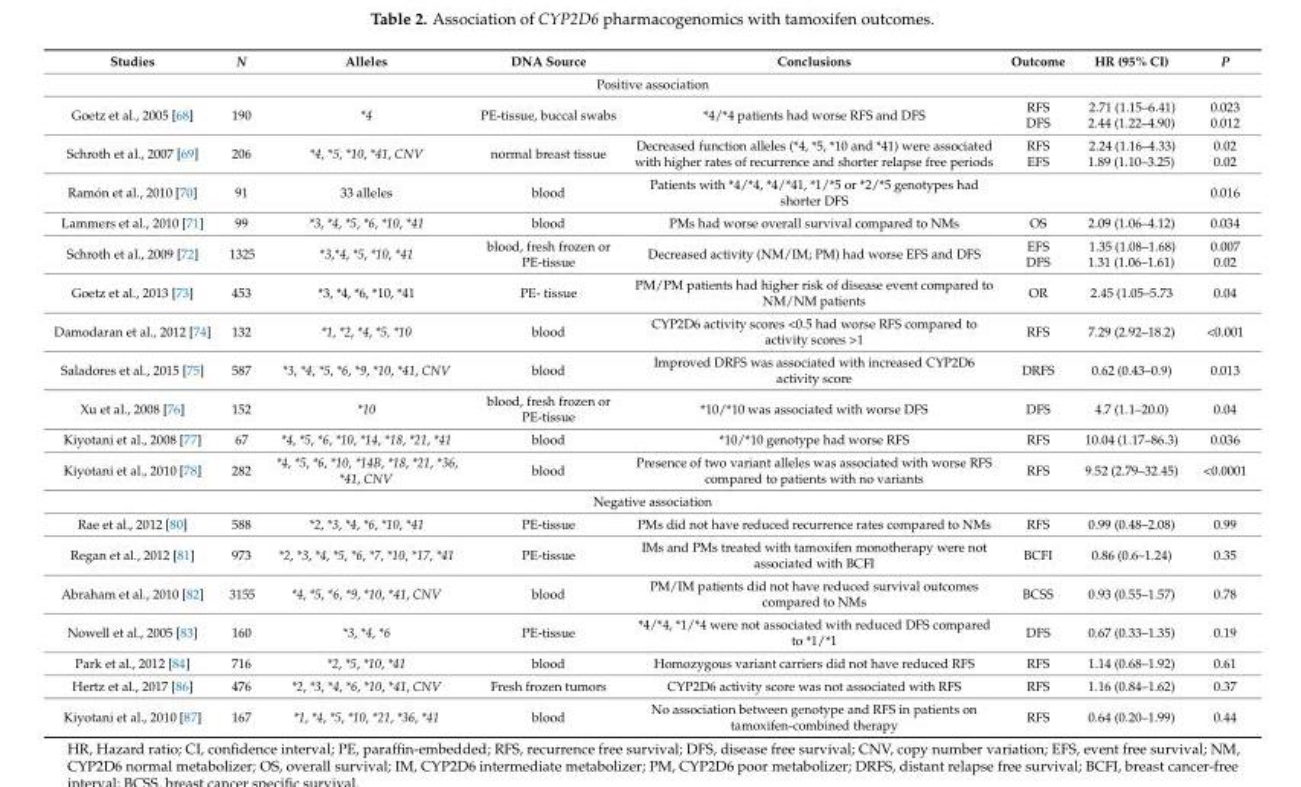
<table><thead><tr><td>Studies</td><td>N</td><td>Alleles</td><td>DNA Source</td><td>Conclusions</td><td>Outcome</td><td>HR (95% CI)</td><td>P</td></tr></thead><tbody><tr><td colspan="8">Positive association</td></tr><tr><td>Goetz et al., 2005 [68]</td><td>190</td><td>*4</td><td>PE-tissue, buccal swabs</td><td>*4/*4 patients had worse RFS and DFS</td><td>RFS DFS</td><td>2.71 (1.15–6.41) 2.44 (1.22–4.90)</td><td>0.023 0.012</td></tr><tr><td>Schroth et al., 2007 [69]</td><td>206</td><td>*4, *5, *10, *41, CNV</td><td>normal breast tissue</td><td>Decreased function alleles (*4, *5, *10 and *41) were associated with higher rates of recurrence and shorter relapse free periods</td><td>RFS EFS</td><td>2.24 (1.16–4.33) 1.89 (1.10–3.25)</td><td>0.02 0.02</td></tr><tr><td>Ramón et al., 2010 [70]</td><td>91</td><td>33 alleles</td><td>blood</td><td>Patients with *4/*4, *4/*41, *1/*5 or *2/*5 genotypes had shorter DFS</td><td></td><td></td><td>0.016</td></tr><tr><td>Lammers et al., 2010 [71]</td><td>99</td><td>*3, *4, *5, *6, *10, *41</td><td>blood</td><td>PMs had worse overall survival compared to NMs</td><td>OS</td><td>2.09 (1.06–4.12)</td><td>0.034</td></tr><tr><td>Schroth et al., 2009 [72]</td><td>1325</td><td>*3,*4, *5, *10, *41</td><td>blood, fresh frozen or PE-tissue</td><td>Decreased activity (NM/IM; PM) had worse EFS and DFS</td><td>EFS DFS</td><td>1.35 (1.08–1.68) 1.31 (1.06–1.61)</td><td>0.007 0.02</td></tr><tr><td>Goetz et al., 2013 [73]</td><td>453</td><td>*3, *4, *6, *10, *41</td><td>PE- tissue</td><td>PM/PM patients had higher risk of disease event compared to NM/NM patients</td><td>OR</td><td>2.45 (1.05–5.73</td><td>0.04</td></tr><tr><td>Damodaran et al., 2012 [74]</td><td>132</td><td>*1, *2, *4, *5, *10</td><td>blood</td><td>CYP2D6 activity scores &lt;0.5 had worse RFS compared to activity scores &gt;1</td><td>RFS</td><td>7.29 (2.92–18.2)</td><td>&lt;0.001</td></tr><tr><td>Saladores et al., 2015 [75]</td><td>587</td><td>*3, *4, *5, *6, *9, *10, *41, CNV</td><td>blood</td><td>Improved DRFS was associated with increased CYP2D6 activity score</td><td>DRFS</td><td>0.62 (0.43–0.9)</td><td>0.013</td></tr><tr><td>Xu et al., 2008 [76]</td><td>152</td><td>*10</td><td>blood, fresh frozen or PE-tissue</td><td>*10/*10 was associated with worse DFS</td><td>DFS</td><td>4.7 (1.1–20.0)</td><td>0.04</td></tr><tr><td>Kiyotani et al., 2008 [77]</td><td>67</td><td>*4, *5, *6, *10, *14, *18, *21, *41</td><td>blood</td><td>*10/*10 genotype had worse RFS</td><td>RFS</td><td>10.04 (1.17–86.3)</td><td>0.036</td></tr><tr><td>Kiyotani et al., 2010 [78]</td><td>282</td><td>*4, *5, *6, *10, *14B, *18, *21, *36, *41, CNV</td><td>blood</td><td>Presence of two variant alleles was associated with worse RFS compared to patients with no variants</td><td>RFS</td><td>9.52 (2.79–32.45)</td><td>&lt;0.0001</td></tr><tr><td colspan="8">Negative association</td></tr><tr><td>Rae et al., 2012 [80]</td><td>588</td><td>*2, *3, *4, *6, *10, *41</td><td>PE-tissue</td><td>PMs did not have reduced recurrence rates compared to NMs</td><td>RFS</td><td>0.99 (0.48–2.08)</td><td>0.99</td></tr><tr><td>Regan et al., 2012 [81]</td><td>973</td><td>*2, *3, *4, *5, *6, *7, *10, *17, *41</td><td>PE-tissue</td><td>IMs and PMs treated with tamoxifen monotherapy were not associated with BCFI</td><td>BCFI</td><td>0.86 (0.6–1.24)</td><td>0.35</td></tr><tr><td>Abraham et al., 2010 [82]</td><td>3155</td><td>*4, *5, *6, *9, *10, *41, CNV</td><td>blood</td><td>PM/IM patients did not have reduced survival outcomes compared to NMs</td><td>BCSS</td><td>0.93 (0.55–1.57)</td><td>0.78</td></tr><tr><td>Nowell et al., 2005 [83]</td><td>160</td><td>*3, *4, *6</td><td>PE-tissue</td><td>*4/*4, *1/*4 were not associated with reduced DFS compared to *1/*1</td><td>DFS</td><td>0.67 (0.33–1.35)</td><td>0.19</td></tr><tr><td>Park et al., 2012 [84]</td><td>716</td><td>*2, *5, *10, *41</td><td>blood</td><td>Homozygous variant carriers did not have reduced RFS</td><td>RFS</td><td>1.14 (0.68–1.92)</td><td>0.61</td></tr><tr><td>Hertz et al., 2017 [86]</td><td>476</td><td>*2, *3, *4, *6, *10, *41, CNV</td><td>Fresh frozen tumors</td><td>CYP2D6 activity score was not associated with RFS</td><td>RFS</td><td>1.16 (0.84–1.62)</td><td>0.37</td></tr><tr><td>Kiyotani et al., 2010 [87]</td><td>167</td><td>*1, *4, *5, *10, *21, *36, *41</td><td>blood</td><td>No association between genotype and RFS in patients on tamoxifen-combined therapy</td><td>RFS</td><td>0.64 (0.20–1.99)</td><td>0.44</td></tr></tbody></table>